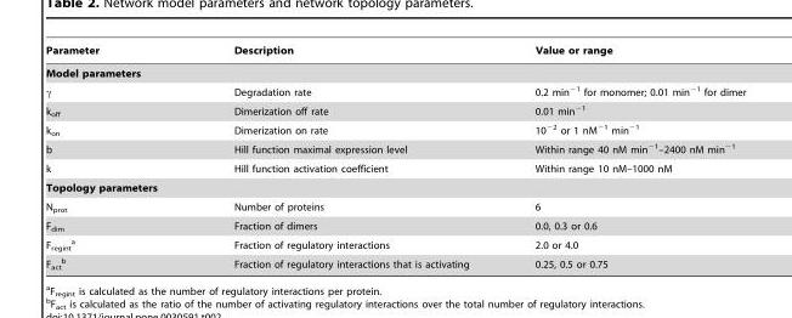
<table><thead><tr><td>Parameter</td><td>Description</td><td>Value or range</td></tr></thead><tbody><tr><td colspan="3">Model parameters</td></tr><tr><td>γ</td><td>Degradation rate</td><td>0.2 min<sup>−1</sup> for monomer; 0.01 min<sup>−1</sup> for dimer</td></tr><tr><td>k<sub>off</sub></td><td>Dimerization off rate</td><td>0.01 min<sup>−1</sup></td></tr><tr><td>k<sub>on</sub></td><td>Dimerization on rate</td><td>10<sup>−2</sup> or 1 nM<sup>−1</sup> min<sup>−1</sup></td></tr><tr><td>b</td><td>Hill function maximal expression level</td><td>Within range 40 nM min<sup>−1</sup>–2400 nM min<sup>−1</sup></td></tr><tr><td>k</td><td>Hill function activation coefficient</td><td>Within range 10 nM–1000 nM</td></tr><tr><td colspan="3">Topology parameters</td></tr><tr><td>N<sub>prot</sub></td><td>Number of proteins</td><td>6</td></tr><tr><td>F<sub>dim</sub></td><td>Fraction of dimers</td><td>0.0, 0.3 or 0.6</td></tr><tr><td>F<sub>regint</sub> a</td><td>Fraction of regulatory interactions</td><td>2.0 or 4.0</td></tr><tr><td>F<sub>act</sub> b</td><td>Fraction of regulatory interactions that is activating</td><td>0.25, 0.5 or 0.75</td></tr></tbody></table>